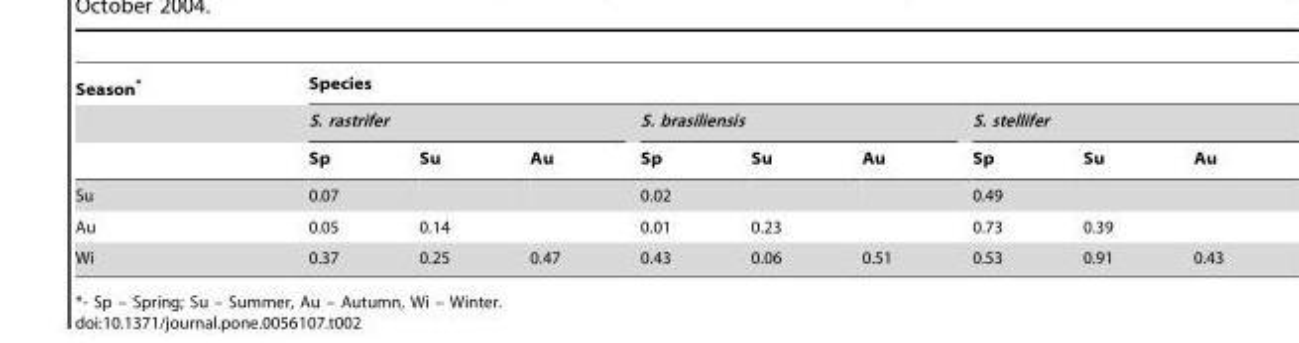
<table><thead><tr><td rowspan="3">Season*</td><td colspan="9">Species</td></tr><tr><td colspan="3">S. rastrifer</td><td colspan="3">S. brasiliensis</td><td colspan="3">S. stellifer</td></tr><tr><td>Sp</td><td>Su</td><td>Au</td><td>Sp</td><td>Su</td><td>Au</td><td>Sp</td><td>Su</td><td>Au</td></tr></thead><tbody><tr><td>Su</td><td>0.07</td><td></td><td></td><td>0.02</td><td></td><td></td><td>0.49</td><td></td><td></td></tr><tr><td>Au</td><td>0.05</td><td>0.14</td><td></td><td>0.01</td><td>0.23</td><td></td><td>0.73</td><td>0.39</td><td></td></tr><tr><td>Wi</td><td>0.37</td><td>0.25</td><td>0.47</td><td>0.43</td><td>0.06</td><td>0.51</td><td>0.53</td><td>0.91</td><td>0.43</td></tr></tbody></table>